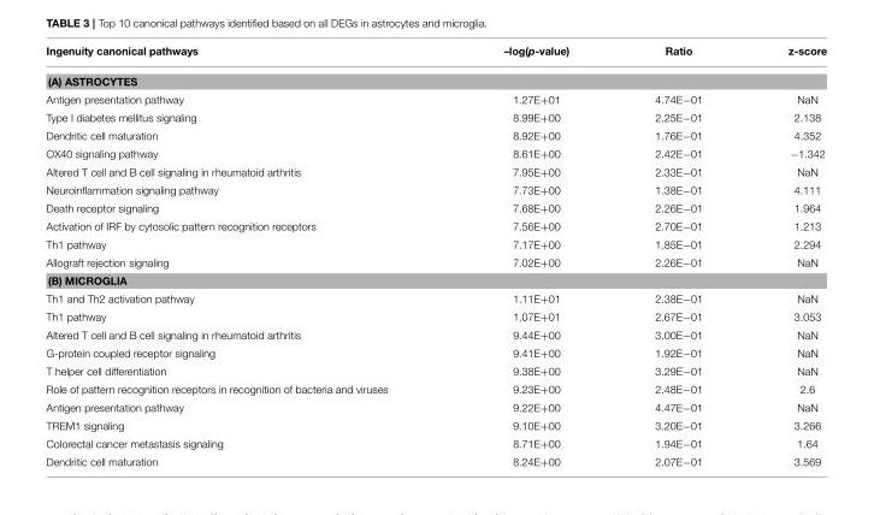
<table><thead><tr><td>Ingenuity canonical pathways</td><td>–log(p-value)</td><td>Ratio</td><td>z-score</td></tr></thead><tbody><tr><td colspan="4">(A) ASTROCYTES</td></tr><tr><td>Antigen presentation pathway</td><td>1.27E+01</td><td>4.74E−01</td><td>NaN</td></tr><tr><td>Type I diabetes mellitus signaling</td><td>8.99E+00</td><td>2.25E−01</td><td>2.138</td></tr><tr><td>Dendritic cell maturation</td><td>8.92E+00</td><td>1.76E−01</td><td>4.352</td></tr><tr><td>OX40 signaling pathway</td><td>8.61E+00</td><td>2.42E−01</td><td>−1.342</td></tr><tr><td>Altered T cell and B cell signaling in rheumatoid arthritis</td><td>7.95E+00</td><td>2.33E−01</td><td>NaN</td></tr><tr><td>Neuroinflammation signaling pathway</td><td>7.73E+00</td><td>1.38E−01</td><td>4.111</td></tr><tr><td>Death receptor signaling</td><td>7.68E+00</td><td>2.26E−01</td><td>1.964</td></tr><tr><td>Activation of IRF by cytosolic pattern recognition receptors</td><td>7.56E+00</td><td>2.70E−01</td><td>1.213</td></tr><tr><td>Th1 pathway</td><td>7.17E+00</td><td>1.85E−01</td><td>2.294</td></tr><tr><td>Allograft rejection signaling</td><td>7.02E+00</td><td>2.26E−01</td><td>NaN</td></tr><tr><td colspan="4">(B) MICROGLIA</td></tr><tr><td>Th1 and Th2 activation pathway</td><td>1.11E+01</td><td>2.38E−01</td><td>NaN</td></tr><tr><td>Th1 pathway</td><td>1.07E+01</td><td>2.67E−01</td><td>3.053</td></tr><tr><td>Altered T cell and B cell signaling in rheumatoid arthritis</td><td>9.44E+00</td><td>3.00E−01</td><td>NaN</td></tr><tr><td>G-protein coupled receptor signaling</td><td>9.41E+00</td><td>1.92E−01</td><td>NaN</td></tr><tr><td>T helper cell differentiation</td><td>9.38E+00</td><td>3.29E−01</td><td>NaN</td></tr><tr><td>Role of pattern recognition receptors in recognition of bacteria and viruses</td><td>9.23E+00</td><td>2.48E−01</td><td>2.6</td></tr><tr><td>Antigen presentation pathway</td><td>9.22E+00</td><td>4.47E−01</td><td>NaN</td></tr><tr><td>TREM1 signaling</td><td>9.10E+00</td><td>3.20E−01</td><td>3.266</td></tr><tr><td>Colorectal cancer metastasis signaling</td><td>8.71E+00</td><td>1.94E−01</td><td>1.64</td></tr><tr><td>Dendritic cell maturation</td><td>8.24E+00</td><td>2.07E−01</td><td>3.569</td></tr></tbody></table>